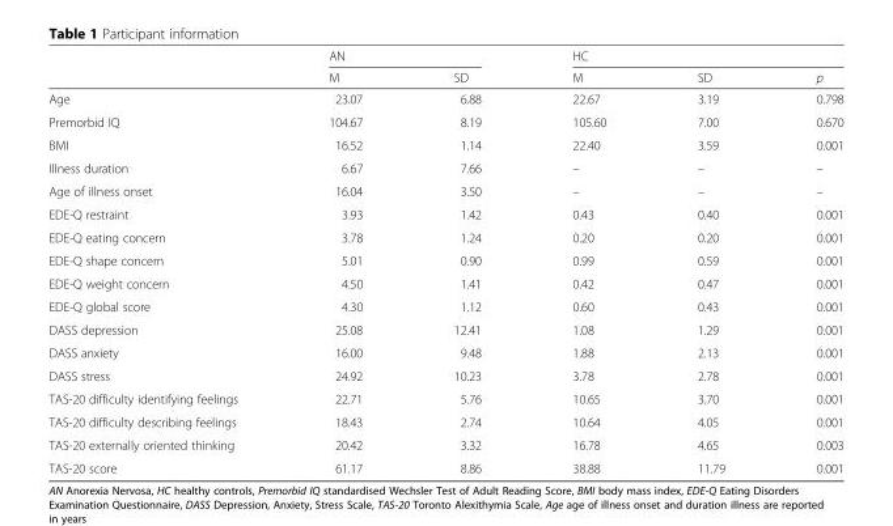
<table><thead><tr><td rowspan="2"></td><td colspan="2">AN</td><td colspan="3">HC</td></tr><tr><td>M</td><td>SD</td><td>M</td><td>SD</td><td>p</td></tr></thead><tbody><tr><td>Age</td><td>23.07</td><td>6.88</td><td>22.67</td><td>3.19</td><td>0.798</td></tr><tr><td>Premorbid IQ</td><td>104.67</td><td>8.19</td><td>105.60</td><td>7.00</td><td>0.670</td></tr><tr><td>BMI</td><td>16.52</td><td>1.14</td><td>22.40</td><td>3.59</td><td>0.001</td></tr><tr><td>Illness duration</td><td>6.67</td><td>7.66</td><td>–</td><td>–</td><td>–</td></tr><tr><td>Age of illness onset</td><td>16.04</td><td>3.50</td><td>–</td><td>–</td><td>–</td></tr><tr><td>EDE-Q restraint</td><td>3.93</td><td>1.42</td><td>0.43</td><td>0.40</td><td>0.001</td></tr><tr><td>EDE-Q eating concern</td><td>3.78</td><td>1.24</td><td>0.20</td><td>0.20</td><td>0.001</td></tr><tr><td>EDE-Q shape concern</td><td>5.01</td><td>0.90</td><td>0.99</td><td>0.59</td><td>0.001</td></tr><tr><td>EDE-Q weight concern</td><td>4.50</td><td>1.41</td><td>0.42</td><td>0.47</td><td>0.001</td></tr><tr><td>EDE-Q global score</td><td>4.30</td><td>1.12</td><td>0.60</td><td>0.43</td><td>0.001</td></tr><tr><td>DASS depression</td><td>25.08</td><td>12.41</td><td>1.08</td><td>1.29</td><td>0.001</td></tr><tr><td>DASS anxiety</td><td>16.00</td><td>9.48</td><td>1.88</td><td>2.13</td><td>0.001</td></tr><tr><td>DASS stress</td><td>24.92</td><td>10.23</td><td>3.78</td><td>2.78</td><td>0.001</td></tr><tr><td>TAS-20 difficulty identifying feelings</td><td>22.71</td><td>5.76</td><td>10.65</td><td>3.70</td><td>0.001</td></tr><tr><td>TAS-20 difficulty describing feelings</td><td>18.43</td><td>2.74</td><td>10.64</td><td>4.05</td><td>0.001</td></tr><tr><td>TAS-20 externally oriented thinking</td><td>20.42</td><td>3.32</td><td>16.78</td><td>4.65</td><td>0.003</td></tr><tr><td>TAS-20 score</td><td>61.17</td><td>8.86</td><td>38.88</td><td>11.79</td><td>0.001</td></tr></tbody></table>